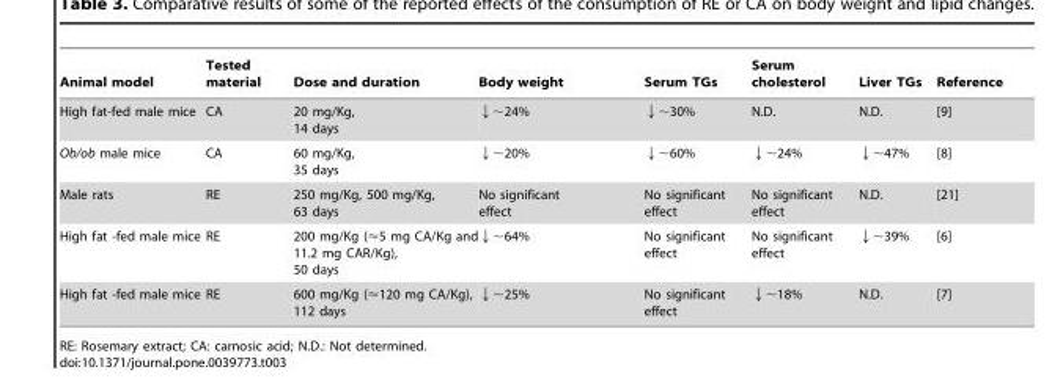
<table><thead><tr><td>Animal model</td><td>Tested material</td><td>Dose and duration</td><td>Body weight</td><td>Serum TGs</td><td>Serum cholesterol</td><td>Liver TGs</td><td>Reference</td></tr></thead><tbody><tr><td>High fat-fed male mice</td><td>CA</td><td>20 mg/Kg, 14 days</td><td>↓∼24%</td><td>↓∼30%</td><td>N.D.</td><td>N.D.</td><td>[9]</td></tr><tr><td>Ob/ob male mice</td><td>CA</td><td>60 mg/Kg, 35 days</td><td>↓∼20%</td><td>↓∼60%</td><td>↓∼24%</td><td>↓∼47%</td><td>[8]</td></tr><tr><td>Male rats</td><td>RE</td><td>250 mg/Kg, 500 mg/Kg, 63 days</td><td>No significant effect</td><td>No significant effect</td><td>No significant effect</td><td>N.D.</td><td>[21]</td></tr><tr><td>High fat -fed male mice</td><td>RE</td><td>200 mg/Kg (&lt;5 mg CA/Kg and 11.2 mg CAR/Kg), 50 days</td><td>↓∼64%</td><td>No significant effect</td><td>No significant effect</td><td>↓∼39%</td><td>[6]</td></tr><tr><td>High fat -fed male mice</td><td>RE</td><td>600 mg/Kg (&lt;120 mg CA/Kg), 112 days</td><td>↓∼25%</td><td>No significant effect</td><td>↓∼18%</td><td>N.D.</td><td>[7]</td></tr></tbody></table>